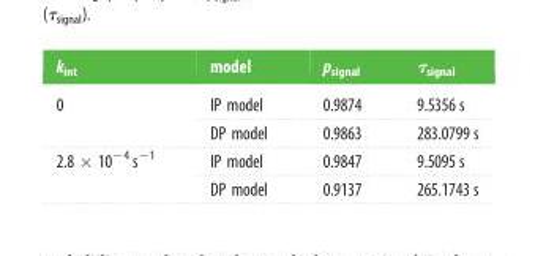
<table><thead><tr><td>k<sub>int</sub></td><td>model</td><td>p<sub>signal</sub></td><td>τ<sub>signal</sub></td></tr></thead><tbody><tr><td rowspan="2">0</td><td>IP model</td><td>0.9874</td><td>9.5356 s</td></tr><tr><td>DP model</td><td>0.9863</td><td>283.0799 s</td></tr><tr><td rowspan="2">2.8 × 10<sup>−4</sup> s<sup>−1</sup></td><td>IP model</td><td>0.9847</td><td>9.5095 s</td></tr><tr><td>DP model</td><td>0.9137</td><td>265.1743 s</td></tr></tbody></table>